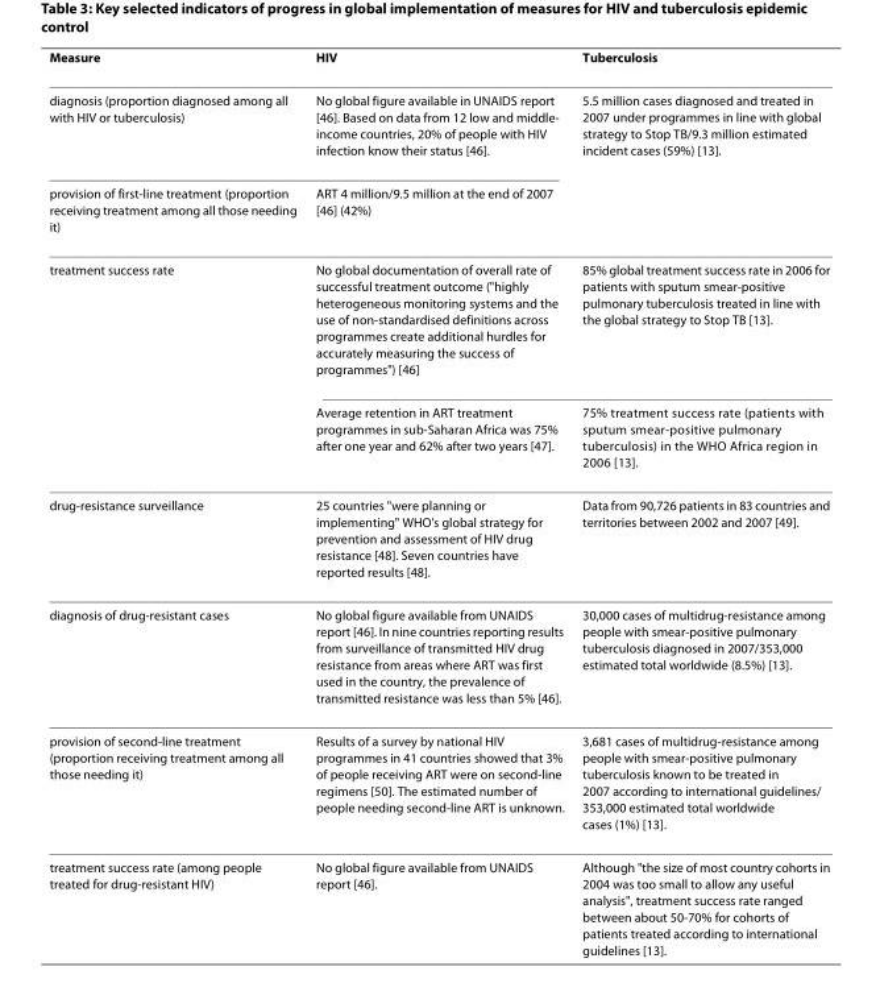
<table><thead><tr><td>Measure</td><td>HIV</td><td>Tuberculosis</td></tr></thead><tbody><tr><td>diagnosis (proportion diagnosed among all with HIV or tuberculosis)</td><td>No global figure available in UNAIDS report [46]. Based on data from 12 low and middle- income countries, 20% of people with HIV infection know their status [46].</td><td>5.5 million cases diagnosed and treated in 2007 under programmes in line with global strategy to Stop TB/9.3 million estimated incident cases (59%) [13].</td></tr><tr><td>provision of first-line treatment (proportion receiving treatment among all those needing it)</td><td>ART 4 million/9.5 million at the end of 2007 [46] (42%)</td><td></td></tr><tr><td rowspan="2">treatment success rate</td><td>No global documentation of overall rate of successful treatment outcome (&quot;highly heterogeneous monitoring systems and the use of non-standardised definitions across programmes create additional hurdles for accurately measuring the success of programmes&quot;) [46]</td><td>85% global treatment success rate in 2006 for patients with sputum smear-positive pulmonary tuberculosis treated in line with the global strategy to Stop TB [13].</td></tr><tr><td>Average retention in ART treatment programmes in sub-Saharan Africa was 75% after one year and 62% after two years [47].</td><td>75% treatment success rate (patients with sputum smear-positive pulmonary tuberculosis) in the WHO Africa region in 2006 [13].</td></tr><tr><td>drug-resistance surveillance</td><td>25 countries &quot;were planning or implementing&quot; WHO&#x27;s global strategy for prevention and assessment of HIV drug resistance [48]. Seven countries have reported results [48].</td><td>Data from 90,726 patients in 83 countries and territories between 2002 and 2007 [49].</td></tr><tr><td>diagnosis of drug-resistant cases</td><td>No global figure available from UNAIDS report [46]. In nine countries reporting results from surveillance of transmitted HIV drug resistance from areas where ART was first used in the country, the prevalence of transmitted resistance was less than 5% [46].</td><td>30,000 cases of multidrug-resistance among people with smear-positive pulmonary tuberculosis diagnosed in 2007/353,000 estimated total worldwide (8.5%) [13].</td></tr><tr><td>provision of second-line treatment (proportion receiving treatment among all those needing it)</td><td>Results of a survey by national HIV programmes in 41 countries showed that 3% of people receiving ART were on second-line regimens [50]. The estimated number of people needing second-line ART is unknown.</td><td>3,681 cases of multidrug-resistance among people with smear-positive pulmonary tuberculosis known to be treated in 2007 according to international guidelines/ 353,000 estimated total worldwide cases (1%) [13].</td></tr><tr><td>treatment success rate (among people treated for drug-resistant HIV)</td><td>No global figure available from UNAIDS report [46].</td><td>Although &quot;the size of most country cohorts in 2004 was too small to allow any useful analysis&quot;, treatment success rate ranged between about 50-70% for cohorts of patients treated according to international guidelines [13].</td></tr></tbody></table>